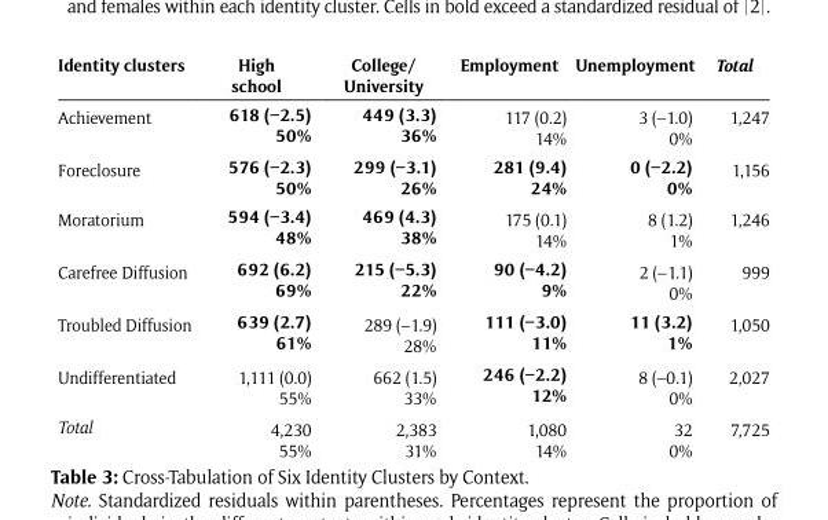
<table><thead><tr><td>Identity clusters</td><td>High school</td><td>College/ University</td><td>Employment</td><td>Unemployment</td><td>Total</td></tr></thead><tbody><tr><td>Achievement</td><td>618 (–2.5) 50%</td><td>449 (3.3) 36%</td><td>117 (0.2) 14%</td><td>3 (–1.0) 0%</td><td>1,247</td></tr><tr><td>Foreclosure</td><td>576 (–2.3) 50%</td><td>299 (–3.1) 26%</td><td>281 (9.4) 24%</td><td>0 (–2.2) 0%</td><td>1,156</td></tr><tr><td>Moratorium</td><td>594 (–3.4) 48%</td><td>469 (4.3) 38%</td><td>175 (0.1) 14%</td><td>8 (1.2) 1%</td><td>1,246</td></tr><tr><td>Carefree Diffusion</td><td>692 (6.2) 69%</td><td>215 (–5.3) 22%</td><td>90 (–4.2) 9%</td><td>2 (–1.1) 0%</td><td>999</td></tr><tr><td>Troubled Diffusion</td><td>639 (2.7) 61%</td><td>289 (–1.9) 28%</td><td>111 (–3.0) 11%</td><td>11 (3.2) 1%</td><td>1,050</td></tr><tr><td>Undifferentiated</td><td>1,111 (0.0) 55%</td><td>662 (1.5) 33%</td><td>246 (–2.2) 12%</td><td>8 (–0.1) 0%</td><td>2,027</td></tr><tr><td>Total</td><td>4,230 55%</td><td>2,383 31%</td><td>1,080 14%</td><td>32 0%</td><td>7,725</td></tr></tbody></table>